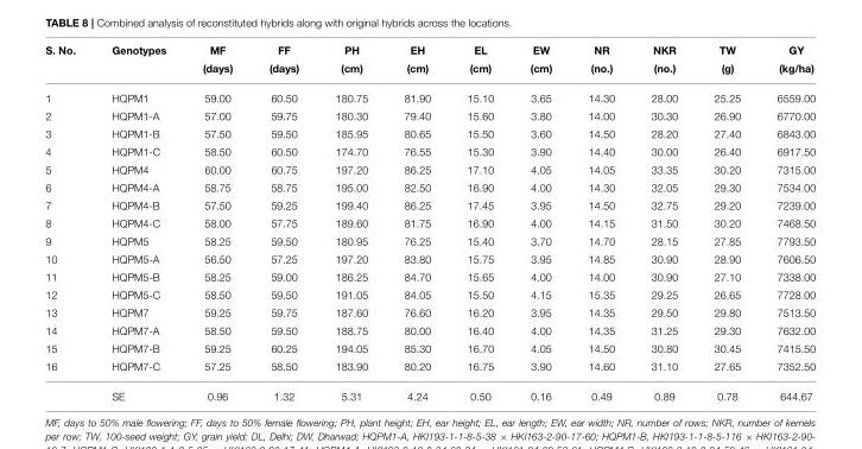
<table><thead><tr><td rowspan="2">S. No.</td><td rowspan="2">Genotypes</td><td rowspan="2">MF (days)</td><td rowspan="2">FF (days)</td><td rowspan="2">PH (cm)</td><td rowspan="2">EH (cm)</td><td rowspan="2">EL (cm)</td><td rowspan="2">EW (cm)</td><td rowspan="2">NR (no.)</td><td rowspan="2">NKR (no.)</td><td rowspan="2">TW (g)</td><td rowspan="2">GY (kg/ha)</td></tr><tr></tr></thead><tbody><tr><td>1</td><td>HQPM1</td><td>59.00</td><td>60.50</td><td>180.75</td><td>81.90</td><td>15.10</td><td>3.65</td><td>14.30</td><td>28.00</td><td>25.25</td><td>6559.00</td></tr><tr><td>2</td><td>HQPM1-A</td><td>57.00</td><td>59.75</td><td>180.30</td><td>79.40</td><td>15.60</td><td>3.80</td><td>14.00</td><td>30.30</td><td>26.90</td><td>6770.00</td></tr><tr><td>3</td><td>HQPM1-B</td><td>57.50</td><td>59.50</td><td>185.95</td><td>80.65</td><td>15.50</td><td>3.60</td><td>14.50</td><td>28.20</td><td>27.40</td><td>6843.00</td></tr><tr><td>4</td><td>HQPM1-C</td><td>58.50</td><td>60.50</td><td>174.70</td><td>76.55</td><td>15.30</td><td>3.90</td><td>14.40</td><td>30.00</td><td>26.40</td><td>6917.50</td></tr><tr><td>5</td><td>HQPM4</td><td>60.00</td><td>60.75</td><td>197.20</td><td>86.25</td><td>17.10</td><td>4.05</td><td>14.05</td><td>33.35</td><td>30.20</td><td>7315.00</td></tr><tr><td>6</td><td>HQPM4-A</td><td>58.75</td><td>58.75</td><td>195.00</td><td>82.50</td><td>16.90</td><td>4.00</td><td>14.30</td><td>32.05</td><td>29.30</td><td>7534.00</td></tr><tr><td>7</td><td>HQPM4-B</td><td>57.50</td><td>59.25</td><td>199.40</td><td>86.25</td><td>17.45</td><td>3.95</td><td>14.50</td><td>32.75</td><td>29.20</td><td>7239.00</td></tr><tr><td>8</td><td>HQPM4-C</td><td>58.00</td><td>57.75</td><td>189.60</td><td>81.75</td><td>16.90</td><td>4.00</td><td>14.15</td><td>31.50</td><td>30.20</td><td>7468.50</td></tr><tr><td>9</td><td>HQPM5</td><td>58.25</td><td>59.50</td><td>180.95</td><td>76.25</td><td>15.40</td><td>3.70</td><td>14.70</td><td>28.15</td><td>27.85</td><td>7793.50</td></tr><tr><td>10</td><td>HQPM5-A</td><td>56.50</td><td>57.25</td><td>197.20</td><td>83.80</td><td>15.75</td><td>3.95</td><td>14.85</td><td>30.90</td><td>28.90</td><td>7606.50</td></tr><tr><td>11</td><td>HQPM5-B</td><td>58.25</td><td>59.00</td><td>186.25</td><td>84.70</td><td>15.65</td><td>4.00</td><td>14.00</td><td>30.90</td><td>27.10</td><td>7338.00</td></tr><tr><td>12</td><td>HQPM5-C</td><td>58.50</td><td>59.50</td><td>191.05</td><td>84.05</td><td>15.50</td><td>4.15</td><td>15.35</td><td>29.25</td><td>26.65</td><td>7728.00</td></tr><tr><td>13</td><td>HQPM7</td><td>59.25</td><td>59.75</td><td>187.60</td><td>76.60</td><td>16.20</td><td>3.95</td><td>14.35</td><td>29.50</td><td>29.80</td><td>7513.50</td></tr><tr><td>14</td><td>HQPM7-A</td><td>58.50</td><td>59.50</td><td>188.75</td><td>80.00</td><td>16.40</td><td>4.00</td><td>14.35</td><td>31.25</td><td>29.30</td><td>7632.00</td></tr><tr><td>15</td><td>HQPM7-B</td><td>59.25</td><td>60.25</td><td>194.05</td><td>85.30</td><td>16.70</td><td>4.05</td><td>14.50</td><td>30.80</td><td>30.45</td><td>7415.50</td></tr><tr><td rowspan="2">16</td><td>HQPM7-C</td><td>57.25</td><td>58.50</td><td>183.90</td><td>80.20</td><td>16.75</td><td>3.90</td><td>14.60</td><td>31.10</td><td>27.65</td><td>7352.50</td></tr><tr><td>SE</td><td>0.96</td><td>1.32</td><td>5.31</td><td>4.24</td><td>0.50</td><td>0.16</td><td>0.49</td><td>0.89</td><td>0.78</td><td>644.67</td></tr></tbody></table>